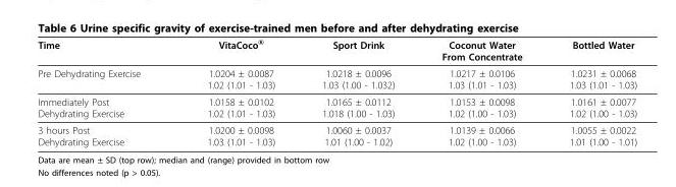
<table><thead><tr><td>Time</td><td>VitaCoco<sup>®</sup></td><td>Sport Drink</td><td>Coconut Water From Concentrate</td><td>Bottled Water</td></tr></thead><tbody><tr><td>Pre Dehydrating Exercise</td><td>1.0204 ± 0.0087 1.02 (1.01 - 1.03)</td><td>1.0218 ± 0.0096 1.03 (1.00 - 1.032)</td><td>1.0217 ± 0.0106 1.03 (1.01 - 1.03)</td><td>1.0231 ± 0.0068 1.03 (1.01 - 1.03)</td></tr><tr><td>Immediately Post Dehydrating Exercise</td><td>1.0158 ± 0.0102 1.02 (1.01 - 1.03)</td><td>1.0165 ± 0.0112 1.018 (1.00 - 1.03)</td><td>1.0153 ± 0.0098 1.02 (1.00 - 1.03)</td><td>1.0161 ± 0.0077 1.02 (1.00 - 1.03)</td></tr><tr><td>3 hours Post Dehydrating Exercise</td><td>1.0200 ± 0.0098 1.03 (1.01 - 1.03)</td><td>1.0060 ± 0.0037 1.01 (1.00 - 1.02)</td><td>1.0139 ± 0.0066 1.02 (1.00 - 1.03)</td><td>1.0055 ± 0.0022 1.01 (1.00 - 1.01)</td></tr></tbody></table>